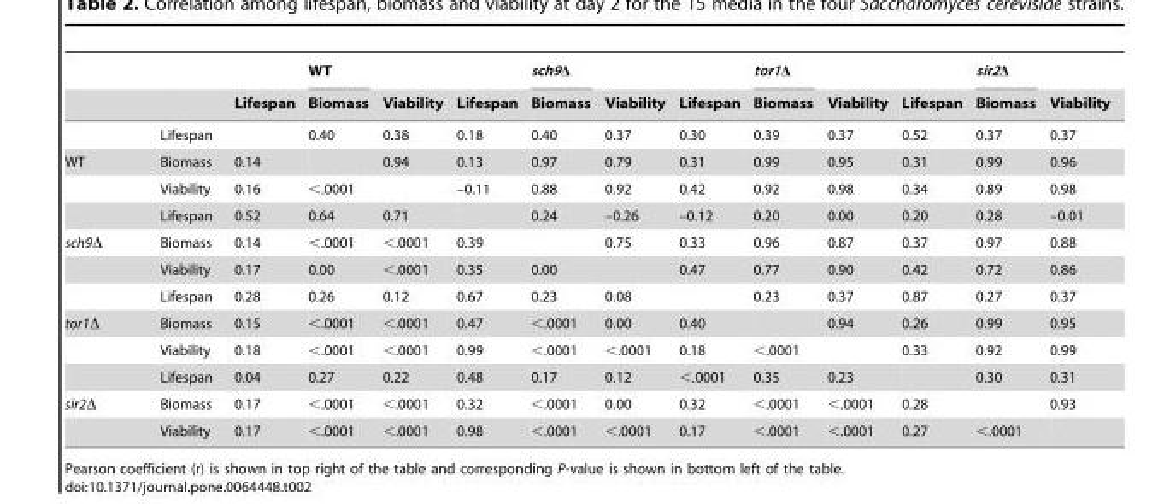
<table><thead><tr><td rowspan="2"></td><td rowspan="2"></td><td rowspan="2">Lifespan</td><td rowspan="2">WT Biomass</td><td rowspan="2">Viability</td><td rowspan="2">Lifespan</td><td rowspan="2">sch9Δ Biomass</td><td rowspan="2">Viability</td><td rowspan="2">Lifespan</td><td rowspan="2">tor1Δ Biomass</td><td rowspan="2">Viability</td><td rowspan="2">Lifespan</td><td rowspan="2">sir2Δ Biomass</td><td rowspan="2">Viability</td></tr><tr></tr></thead><tbody><tr><td></td><td>Lifespan</td><td></td><td>0.40</td><td>0.38</td><td>0.18</td><td>0.40</td><td>0.37</td><td>0.30</td><td>0.39</td><td>0.37</td><td>0.52</td><td>0.37</td><td>0.37</td></tr><tr><td rowspan="3">WT</td><td>Biomass</td><td>0.14</td><td></td><td>0.94</td><td>0.13</td><td>0.97</td><td>0.79</td><td>0.31</td><td>0.99</td><td>0.95</td><td>0.31</td><td>0.99</td><td>0.96</td></tr><tr><td>Viability</td><td>0.16</td><td>&lt;.0001</td><td></td><td>–0.11</td><td>0.88</td><td>0.92</td><td>0.42</td><td>0.92</td><td>0.98</td><td>0.34</td><td>0.89</td><td>0.98</td></tr><tr><td>Lifespan</td><td>0.52</td><td>0.64</td><td>0.71</td><td></td><td>0.24</td><td>–0.26</td><td>–0.12</td><td>0.20</td><td>0.00</td><td>0.20</td><td>0.28</td><td>–0.01</td></tr><tr><td rowspan="3">sch9Δ</td><td>Biomass</td><td>0.14</td><td>&lt;.0001</td><td>&lt;.0001</td><td>0.39</td><td></td><td>0.75</td><td>0.33</td><td>0.96</td><td>0.87</td><td>0.37</td><td>0.97</td><td>0.88</td></tr><tr><td>Viability</td><td>0.17</td><td>0.00</td><td>&lt;.0001</td><td>0.35</td><td>0.00</td><td></td><td>0.47</td><td>0.77</td><td>0.90</td><td>0.42</td><td>0.72</td><td>0.86</td></tr><tr><td>Lifespan</td><td>0.28</td><td>0.26</td><td>0.12</td><td>0.67</td><td>0.23</td><td>0.08</td><td></td><td>0.23</td><td>0.37</td><td>0.87</td><td>0.27</td><td>0.37</td></tr><tr><td rowspan="3">tor1Δ</td><td>Biomass</td><td>0.15</td><td>&lt;.0001</td><td>&lt;.0001</td><td>0.47</td><td>&lt;.0001</td><td>0.00</td><td>0.40</td><td></td><td>0.94</td><td>0.26</td><td>0.99</td><td>0.95</td></tr><tr><td>Viability</td><td>0.18</td><td>&lt;.0001</td><td>&lt;.0001</td><td>0.99</td><td>&lt;.0001</td><td>&lt;.0001</td><td>0.18</td><td>&lt;.0001</td><td></td><td>0.33</td><td>0.92</td><td>0.99</td></tr><tr><td>Lifespan</td><td>0.04</td><td>0.27</td><td>0.22</td><td>0.48</td><td>0.17</td><td>0.12</td><td>&lt;.0001</td><td>0.35</td><td>0.23</td><td></td><td>0.30</td><td>0.31</td></tr><tr><td rowspan="2">sir2Δ</td><td>Biomass</td><td>0.17</td><td>&lt;.0001</td><td>&lt;.0001</td><td>0.32</td><td>&lt;.0001</td><td>0.00</td><td>0.32</td><td>&lt;.0001</td><td>&lt;.0001</td><td>0.28</td><td></td><td>0.93</td></tr><tr><td>Viability</td><td>0.17</td><td>&lt;.0001</td><td>&lt;.0001</td><td>0.98</td><td>&lt;.0001</td><td>&lt;.0001</td><td>0.17</td><td>&lt;.0001</td><td>&lt;.0001</td><td>0.27</td><td>&lt;.0001</td><td></td></tr></tbody></table>